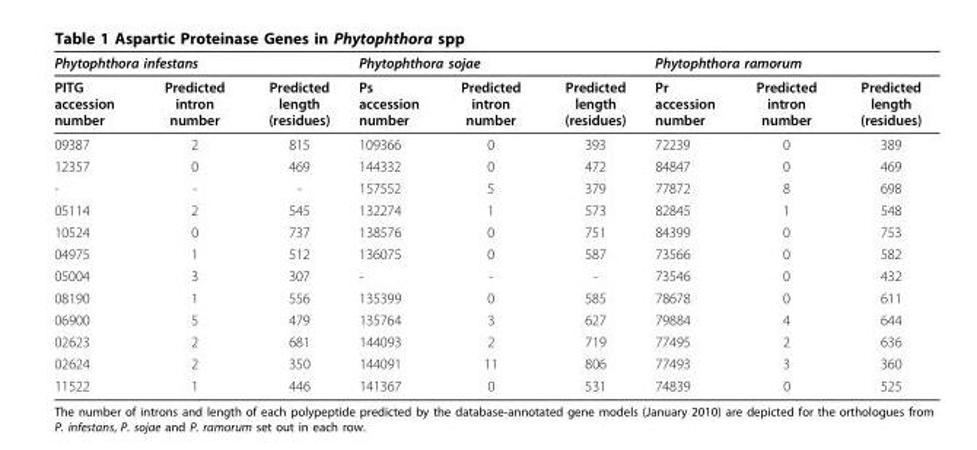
<table><thead><tr><td colspan="3">Phytophthora infestans</td><td colspan="3">Phytophthora sojae</td><td colspan="3">Phytophthora ramorum</td></tr><tr><td>PITG accession number</td><td>Predicted intron number</td><td>Predicted length (residues)</td><td>Ps accession number</td><td>Predicted intron number</td><td>Predicted length (residues)</td><td>Pr accession number</td><td>Predicted intron number</td><td>Predicted length (residues)</td></tr></thead><tbody><tr><td>09387</td><td>2</td><td>815</td><td>109366</td><td>0</td><td>393</td><td>72239</td><td>0</td><td>389</td></tr><tr><td>12357</td><td>0</td><td>469</td><td>144332</td><td>0</td><td>472</td><td>84847</td><td>0</td><td>469</td></tr><tr><td>-</td><td>-</td><td>-</td><td>157552</td><td>5</td><td>379</td><td>77872</td><td>8</td><td>698</td></tr><tr><td>05114</td><td>2</td><td>545</td><td>132274</td><td>1</td><td>573</td><td>82845</td><td>1</td><td>548</td></tr><tr><td>10524</td><td>0</td><td>737</td><td>138576</td><td>0</td><td>751</td><td>84399</td><td>0</td><td>753</td></tr><tr><td>04975</td><td>1</td><td>512</td><td>136075</td><td>0</td><td>587</td><td>73566</td><td>0</td><td>582</td></tr><tr><td>05004</td><td>3</td><td>307</td><td>-</td><td>-</td><td>-</td><td>73546</td><td>0</td><td>432</td></tr><tr><td>08190</td><td>1</td><td>556</td><td>135399</td><td>0</td><td>585</td><td>78678</td><td>0</td><td>611</td></tr><tr><td>06900</td><td>5</td><td>479</td><td>135764</td><td>3</td><td>627</td><td>79884</td><td>4</td><td>644</td></tr><tr><td>02623</td><td>2</td><td>681</td><td>144093</td><td>2</td><td>719</td><td>77495</td><td>2</td><td>636</td></tr><tr><td>02624</td><td>2</td><td>350</td><td>144091</td><td>11</td><td>806</td><td>77493</td><td>3</td><td>360</td></tr><tr><td>11522</td><td>1</td><td>446</td><td>141367</td><td>0</td><td>531</td><td>74839</td><td>0</td><td>525</td></tr></tbody></table>